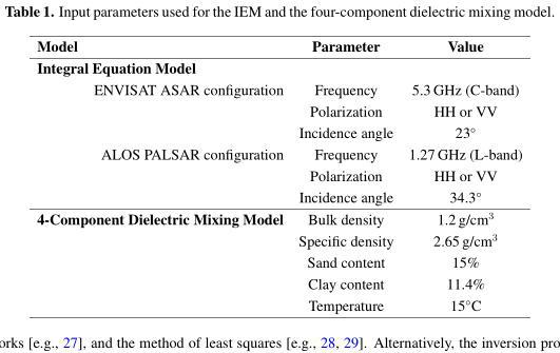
<table><thead><tr><td>Model</td><td>Parameter</td><td>Value</td></tr></thead><tbody><tr><td colspan="3">Integral Equation Model</td></tr><tr><td rowspan="3">ENVISAT ASAR configuration</td><td>Frequency</td><td>5.3 GHz (C-band)</td></tr><tr><td>Polarization</td><td>HH or VV</td></tr><tr><td>Incidence angle</td><td>23◦</td></tr><tr><td rowspan="3">ALOS PALSAR configuration</td><td>Frequency</td><td>1.27 GHz (L-band)</td></tr><tr><td>Polarization</td><td>HH or VV</td></tr><tr><td>Incidence angle</td><td>34.3◦</td></tr><tr><td rowspan="5">4-Component Dielectric Mixing Model</td><td>Bulk density</td><td>1.2 g/cm<sup>3</sup></td></tr><tr><td>Specific density</td><td>2.65 g/cm<sup>3</sup></td></tr><tr><td>Sand content</td><td>15%</td></tr><tr><td>Clay content</td><td>11.4%</td></tr><tr><td>Temperature</td><td>15◦C</td></tr></tbody></table>